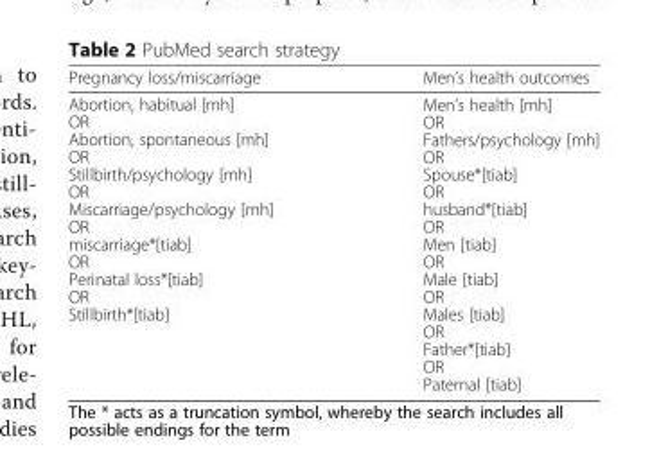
<table><thead><tr><td>Pregnancy loss/miscarriage</td><td>Men’s health outcomes</td></tr></thead><tbody><tr><td>Abortion, habitual [mh] OR Abortion, spontaneous [mh] OR Stillbirth/psychology [mh] OR Miscarriage/psychology [mh] OR miscarriage*[tiab] OR Perinatal loss*[tiab] OR Stillbirth*[tiab]</td><td>Men’s health [mh] OR Fathers/psychology [mh] OR Spouse*[tiab] OR husband*[tiab] OR Men [tiab] OR Male [tiab] OR Males [tiab] OR Father*[tiab] OR Paternal [tiab]</td></tr></tbody></table>